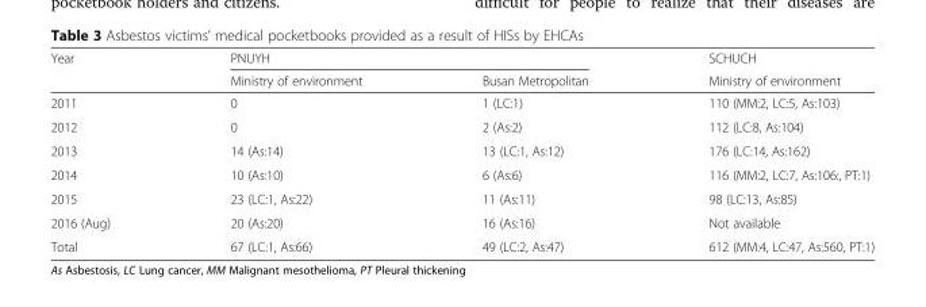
<table><thead><tr><td rowspan="2">Year</td><td colspan="2">PNUYH</td><td rowspan="2">SCHUCH Ministry of environment</td></tr><tr><td>Ministry of environment</td><td>Busan Metropolitan</td></tr></thead><tbody><tr><td>2011</td><td>0</td><td>1 (LC:1)</td><td>110 (MM:2, LC:5, As:103)</td></tr><tr><td>2012</td><td>0</td><td>2 (As:2)</td><td>112 (LC:8, As:104)</td></tr><tr><td>2013</td><td>14 (As:14)</td><td>13 (LC:1, As:12)</td><td>176 (LC:14, As:162)</td></tr><tr><td>2014</td><td>10 (As:10)</td><td>6 (As:6)</td><td>116 (MM:2, LC:7, As:106:, PT:1)</td></tr><tr><td>2015</td><td>23 (LC:1, As:22)</td><td>11 (As:11)</td><td>98 (LC:13, As:85)</td></tr><tr><td>2016 (Aug)</td><td>20 (As:20)</td><td>16 (As:16)</td><td>Not available</td></tr><tr><td>Total</td><td>67 (LC:1, As:66)</td><td>49 (LC:2, As:47)</td><td>612 (MM:4, LC:47, As:560, PT:1)</td></tr></tbody></table>